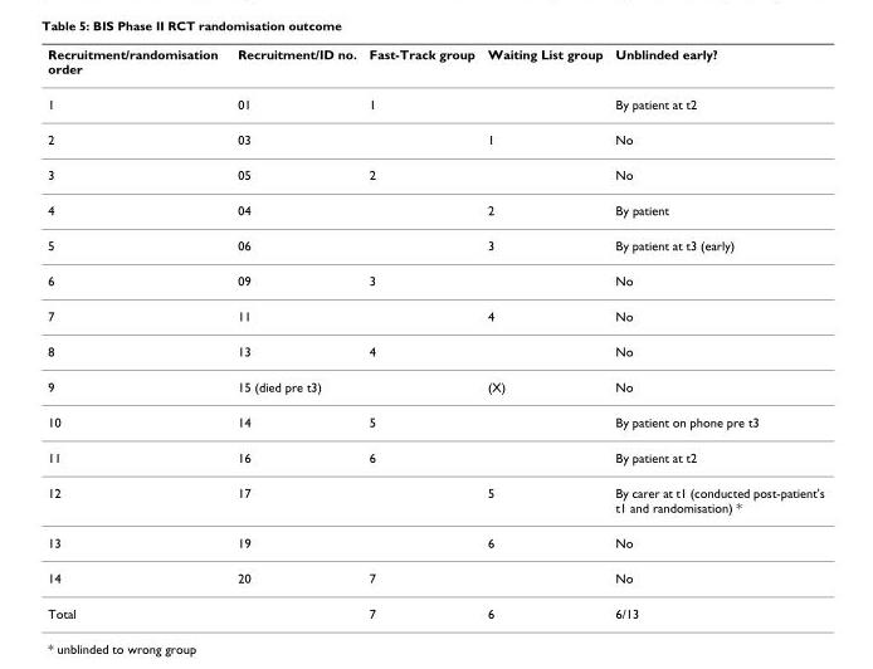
<table><thead><tr><td>Recruitment/randomisation order</td><td>Recruitment/ID no.</td><td>Fast-Track group</td><td>Waiting List group</td><td>Unblinded early?</td></tr></thead><tbody><tr><td>1</td><td>01</td><td>1</td><td></td><td>By patient at t2</td></tr><tr><td>2</td><td>03</td><td></td><td>1</td><td>No</td></tr><tr><td>3</td><td>05</td><td>2</td><td></td><td>No</td></tr><tr><td>4</td><td>04</td><td></td><td>2</td><td>By patient</td></tr><tr><td>5</td><td>06</td><td></td><td>3</td><td>By patient at t3 (early)</td></tr><tr><td>6</td><td>09</td><td>3</td><td></td><td>No</td></tr><tr><td>7</td><td>11</td><td></td><td>4</td><td>No</td></tr><tr><td>8</td><td>13</td><td>4</td><td></td><td>No</td></tr><tr><td>9</td><td>15 (died pre t3)</td><td></td><td>(X)</td><td>No</td></tr><tr><td>10</td><td>14</td><td>5</td><td></td><td>By patient on phone pre t3</td></tr><tr><td>11</td><td>16</td><td>6</td><td></td><td>By patient at t2</td></tr><tr><td>12</td><td>17</td><td></td><td>5</td><td>By carer at t1 (conducted post-patient&#x27;s t1 and randomisation) *</td></tr><tr><td>13</td><td>19</td><td></td><td>6</td><td>No</td></tr><tr><td>14</td><td>20</td><td>7</td><td></td><td>No</td></tr><tr><td>Total</td><td></td><td>7</td><td>6</td><td>6/13</td></tr></tbody></table>